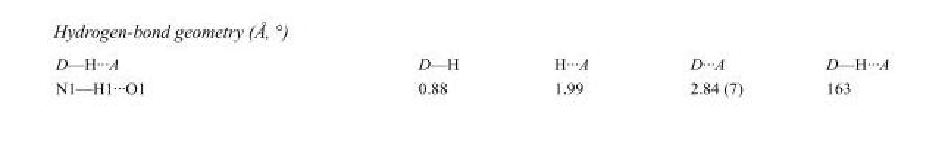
<table><tbody><tr><td>D—H···A</td><td>D—H</td><td>H···A</td><td>D···A</td><td>D—H···A</td></tr><tr><td>N1—H1···O1</td><td>0.88</td><td>1.99</td><td>2.84 (7)</td><td>163</td></tr></tbody></table>